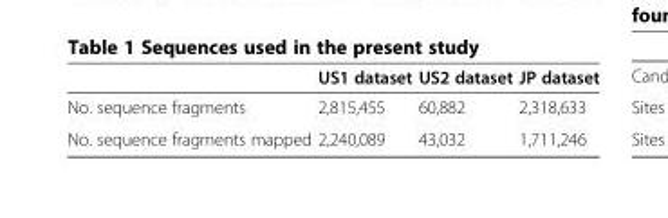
<table><thead><tr><td></td><td>US1 dataset</td><td>US2 dataset</td><td>JP dataset</td></tr></thead><tbody><tr><td>No. sequence fragments</td><td>2,815,455</td><td>60,882</td><td>2,318,633</td></tr><tr><td>No. sequence fragments mapped</td><td>2,240,089</td><td>43,032</td><td>1,711,246</td></tr></tbody></table>